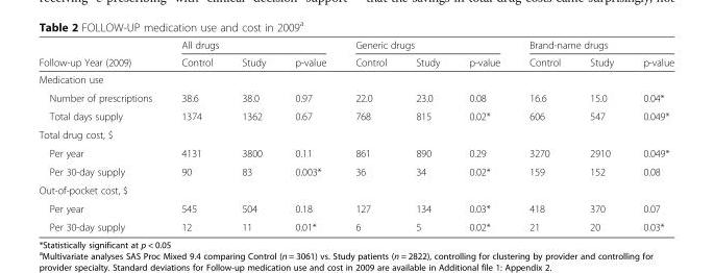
<table><thead><tr><td rowspan="2">Follow-up Year (2009)</td><td colspan="3">All drugs</td><td colspan="3">Generic drugs</td><td colspan="3">Brand-name drugs</td></tr><tr><td>Control</td><td>Study</td><td>p-value</td><td>Control</td><td>Study</td><td>p-value</td><td>Control</td><td>Study</td><td>p-value</td></tr></thead><tbody><tr><td colspan="10">Medication use</td></tr><tr><td>Number of prescriptions</td><td>38.6</td><td>38.0</td><td>0.97</td><td>22.0</td><td>23.0</td><td>0.08</td><td>16.6</td><td>15.0</td><td>0.04*</td></tr><tr><td>Total days supply</td><td>1374</td><td>1362</td><td>0.67</td><td>768</td><td>815</td><td>0.02*</td><td>606</td><td>547</td><td>0.049*</td></tr><tr><td colspan="10">Total drug cost, $</td></tr><tr><td>Per year</td><td>4131</td><td>3800</td><td>0.11</td><td>861</td><td>890</td><td>0.29</td><td>3270</td><td>2910</td><td>0.049*</td></tr><tr><td>Per 30-day supply</td><td>90</td><td>83</td><td>0.003*</td><td>36</td><td>34</td><td>0.02*</td><td>159</td><td>152</td><td>0.08</td></tr><tr><td colspan="10">Out-of-pocket cost, $</td></tr><tr><td>Per year</td><td>545</td><td>504</td><td>0.18</td><td>127</td><td>134</td><td>0.03*</td><td>418</td><td>370</td><td>0.07</td></tr><tr><td>Per 30-day supply</td><td>12</td><td>11</td><td>0.01*</td><td>6</td><td>5</td><td>0.02*</td><td>21</td><td>20</td><td>0.03*</td></tr></tbody></table>